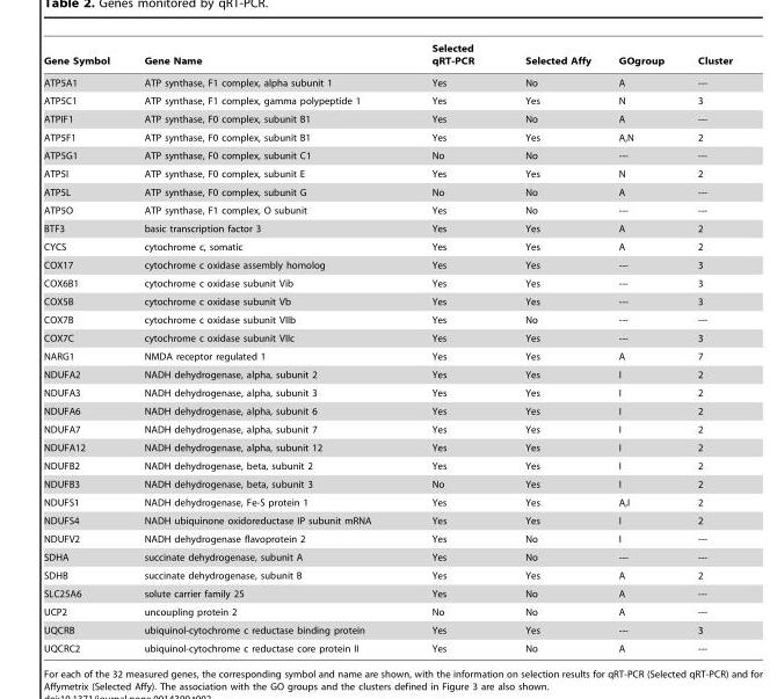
<table><thead><tr><td>Gene Symbol</td><td>Gene Name</td><td>Selected qRT-PCR</td><td>Selected Affy</td><td>GOgroup</td><td>Cluster</td></tr></thead><tbody><tr><td>ATP5A1</td><td>ATP synthase, F1 complex, alpha subunit 1</td><td>Yes</td><td>No</td><td>A</td><td>---</td></tr><tr><td>ATP5C1</td><td>ATP synthase, F1 complex, gamma polypeptide 1</td><td>Yes</td><td>Yes</td><td>N</td><td>3</td></tr><tr><td>ATPIF1</td><td>ATP synthase, F0 complex, subunit B1</td><td>Yes</td><td>No</td><td>A</td><td>---</td></tr><tr><td>ATP5F1</td><td>ATP synthase, F0 complex, subunit B1</td><td>Yes</td><td>Yes</td><td>A,N</td><td>2</td></tr><tr><td>ATP5G1</td><td>ATP synthase, F0 complex, subunit C1</td><td>No</td><td>No</td><td>---</td><td>---</td></tr><tr><td>ATP5I</td><td>ATP synthase, F0 complex, subunit E</td><td>Yes</td><td>Yes</td><td>N</td><td>2</td></tr><tr><td>ATP5L</td><td>ATP synthase, F0 complex, subunit G</td><td>No</td><td>No</td><td>A</td><td>---</td></tr><tr><td>ATP5O</td><td>ATP synthase, F1 complex, O subunit</td><td>Yes</td><td>No</td><td>---</td><td>---</td></tr><tr><td>BTF3</td><td>basic transcription factor 3</td><td>Yes</td><td>Yes</td><td>A</td><td>2</td></tr><tr><td>CYCS</td><td>cytochrome c, somatic</td><td>Yes</td><td>Yes</td><td>A</td><td>2</td></tr><tr><td>COX17</td><td>cytochrome c oxidase assembly homolog</td><td>Yes</td><td>Yes</td><td>---</td><td>3</td></tr><tr><td>COX6B1</td><td>cytochrome c oxidase subunit Vib</td><td>Yes</td><td>Yes</td><td>---</td><td>3</td></tr><tr><td>COX5B</td><td>cytochrome c oxidase subunit Vb</td><td>Yes</td><td>Yes</td><td>---</td><td>3</td></tr><tr><td>COX7B</td><td>cytochrome c oxidase subunit VIIb</td><td>Yes</td><td>No</td><td>---</td><td>---</td></tr><tr><td>COX7C</td><td>cytochrome c oxidase subunit VIIc</td><td>Yes</td><td>Yes</td><td>---</td><td>3</td></tr><tr><td>NARG1</td><td>NMDA receptor regulated 1</td><td>Yes</td><td>Yes</td><td>A</td><td>7</td></tr><tr><td>NDUFA2</td><td>NADH dehydrogenase, alpha, subunit 2</td><td>Yes</td><td>Yes</td><td>I</td><td>2</td></tr><tr><td>NDUFA3</td><td>NADH dehydrogenase, alpha, subunit 3</td><td>Yes</td><td>Yes</td><td>I</td><td>2</td></tr><tr><td>NDUFA6</td><td>NADH dehydrogenase, alpha, subunit 6</td><td>Yes</td><td>Yes</td><td>I</td><td>2</td></tr><tr><td>NDUFA7</td><td>NADH dehydrogenase, alpha, subunit 7</td><td>Yes</td><td>Yes</td><td>I</td><td>2</td></tr><tr><td>NDUFA12</td><td>NADH dehydrogenase, alpha, subunit 12</td><td>Yes</td><td>Yes</td><td>I</td><td>2</td></tr><tr><td>NDUFB2</td><td>NADH dehydrogenase, beta, subunit 2</td><td>Yes</td><td>Yes</td><td>I</td><td>2</td></tr><tr><td>NDUFB3</td><td>NADH dehydrogenase, beta, subunit 3</td><td>No</td><td>Yes</td><td>I</td><td>2</td></tr><tr><td>NDUFS1</td><td>NADH dehydrogenase, Fe-S protein 1</td><td>Yes</td><td>Yes</td><td>A,I</td><td>2</td></tr><tr><td>NDUFS4</td><td>NADH ubiquinone oxidoreductase IP subunit mRNA</td><td>Yes</td><td>Yes</td><td>I</td><td>2</td></tr><tr><td>NDUFV2</td><td>NADH dehydrogenase flavoprotein 2</td><td>Yes</td><td>No</td><td>I</td><td>---</td></tr><tr><td>SDHA</td><td>succinate dehydrogenase, subunit A</td><td>Yes</td><td>No</td><td>---</td><td>---</td></tr><tr><td>SDHB</td><td>succinate dehydrogenase, subunit B</td><td>Yes</td><td>Yes</td><td>A</td><td>2</td></tr><tr><td>SLC25A6</td><td>solute carrier family 25</td><td>Yes</td><td>No</td><td>A</td><td>---</td></tr><tr><td>UCP2</td><td>uncoupling protein 2</td><td>No</td><td>No</td><td>A</td><td>---</td></tr><tr><td>UQCRB</td><td>ubiquinol-cytochrome c reductase binding protein</td><td>Yes</td><td>Yes</td><td>---</td><td>3</td></tr><tr><td>UQCRC2</td><td>ubiquinol-cytochrome c reductase core protein II</td><td>Yes</td><td>No</td><td>A</td><td>---</td></tr></tbody></table>